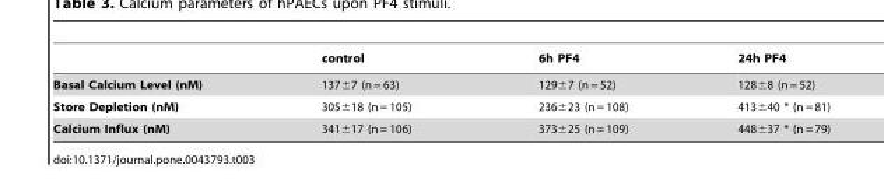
<table><thead><tr><td></td><td>control</td><td>6h PF4</td><td>24h PF4</td></tr></thead><tbody><tr><td>Basal Calcium Level (nM)</td><td>137±7 (n = 63)</td><td>129±7 (n = 52)</td><td>128±8 (n = 52)</td></tr><tr><td>Store Depletion (nM)</td><td>305±18 (n = 105)</td><td>236±23 (n = 108)</td><td>413±40 * (n = 81)</td></tr><tr><td>Calcium Influx (nM)</td><td>341±17 (n = 106)</td><td>373±25 (n = 109)</td><td>448±37 * (n = 79)</td></tr></tbody></table>